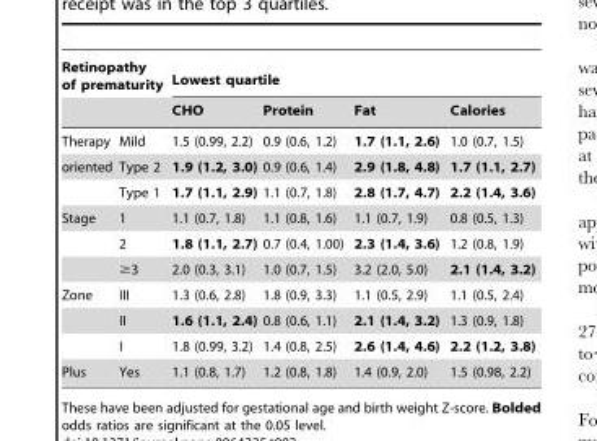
<table><thead><tr><td colspan="2">Retinopathy of prematurity</td><td colspan="4">Lowest quartile</td></tr><tr><td></td><td></td><td>CHO</td><td>Protein</td><td>Fat</td><td>Calories</td></tr></thead><tbody><tr><td>Therapy</td><td>Mild</td><td>1.5 (0.99, 2.2)</td><td>0.9 (0.6, 1.2)</td><td>1.7 (1.1, 2.6)</td><td>1.0 (0.7, 1.5)</td></tr><tr><td rowspan="2">oriented</td><td>Type 2</td><td>1.9 (1.2, 3.0)</td><td>0.9 (0.6, 1.4)</td><td>2.9 (1.8, 4.8)</td><td>1.7 (1.1, 2.7)</td></tr><tr><td>Type 1</td><td>1.7 (1.1, 2.9)</td><td>1.1 (0.7, 1.8)</td><td>2.8 (1.7, 4.7)</td><td>2.2 (1.4, 3.6)</td></tr><tr><td rowspan="3">Stage</td><td>1</td><td>1.1 (0.7, 1.8)</td><td>1.1 (0.8, 1.6)</td><td>1.1 (0.7, 1.9)</td><td>0.8 (0.5, 1.3)</td></tr><tr><td>2</td><td>1.8 (1.1, 2.7)</td><td>0.7 (0.4, 1.00)</td><td>2.3 (1.4, 3.6)</td><td>1.2 (0.8, 1.9)</td></tr><tr><td>≥3</td><td>2.0 (0.3, 3.1)</td><td>1.0 (0.7, 1.5)</td><td>3.2 (2.0, 5.0)</td><td>2.1 (1.4, 3.2)</td></tr><tr><td rowspan="3">Zone</td><td>III</td><td>1.3 (0.6, 2.8)</td><td>1.8 (0.9, 3.3)</td><td>1.1 (0.5, 2.9)</td><td>1.1 (0.5, 2.4)</td></tr><tr><td>II</td><td>1.6 (1.1, 2.4)</td><td>0.8 (0.6, 1.1)</td><td>2.1 (1.4, 3.2)</td><td>1.3 (0.9, 1.8)</td></tr><tr><td>I</td><td>1.8 (0.99, 3.2)</td><td>1.4 (0.8, 2.5)</td><td>2.6 (1.4, 4.6)</td><td>2.2 (1.2, 3.8)</td></tr><tr><td>Plus</td><td>Yes</td><td>1.1 (0.8, 1.7)</td><td>1.2 (0.8, 1.8)</td><td>1.4 (0.9, 2.0)</td><td>1.5 (0.98, 2.2)</td></tr></tbody></table>